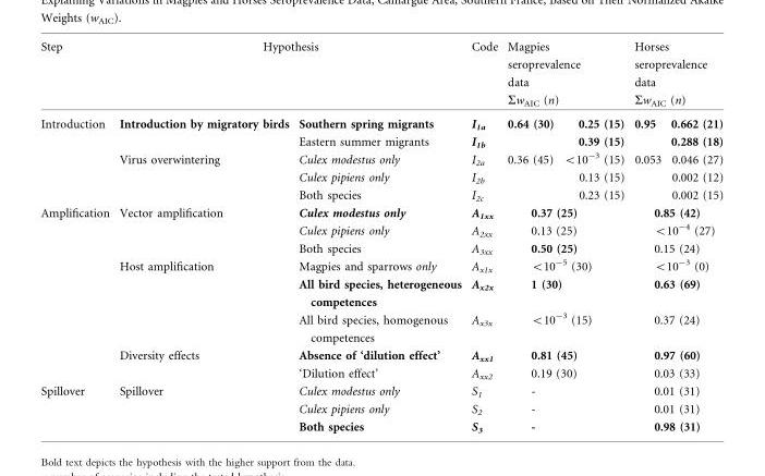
<table><thead><tr><td rowspan="2">Step Introduction</td><td colspan="2">Hypothesis</td><td rowspan="2">Code I<sub>1a</sub></td><td colspan="2">Magpies seroprevalence data Σw<sub>AIC</sub> (n)</td><td colspan="2">Horses seroprevalence data Σw<sub>AIC</sub> (n)</td></tr><tr><td>Introduction by migratory birds</td><td>Southern spring migrants</td><td>0.64 (30)</td><td>0.25 (15)</td><td>0.95</td><td>0.662 (21)</td></tr></thead><tbody><tr><td></td><td></td><td>Eastern summer migrants</td><td>I<sub>1b</sub></td><td></td><td>0.39 (15)</td><td></td><td>0.288 (18)</td></tr><tr><td></td><td>Virus overwintering</td><td>Culex modestus only</td><td>I<sub>2a</sub></td><td>0.36 (45)</td><td>&lt;10<sup>-3</sup> (15)</td><td>0.053</td><td>0.046 (27)</td></tr><tr><td></td><td></td><td>Culex pipiens only</td><td>I<sub>2b</sub></td><td></td><td>0.13 (15)</td><td></td><td>0.002 (12)</td></tr><tr><td></td><td></td><td>Both species</td><td>I<sub>2c</sub></td><td></td><td>0.23 (15)</td><td></td><td>0.002 (15)</td></tr><tr><td rowspan="8">Amplification</td><td>Vector amplification</td><td>Culex modestus only</td><td>A<sub>1xx</sub></td><td colspan="2">0.37 (25)</td><td colspan="2">0.85 (42)</td></tr><tr><td></td><td>Culex pipiens only</td><td>A<sub>2xx</sub></td><td colspan="2">0.13 (25)</td><td colspan="2">&lt;10<sup>-4</sup> (27)</td></tr><tr><td></td><td>Both species</td><td>A<sub>3xx</sub></td><td colspan="2">0.50 (25)</td><td colspan="2">0.15 (24)</td></tr><tr><td>Host amplification</td><td>Magpies and sparrows only</td><td>A<sub>x1x</sub></td><td colspan="2">&lt;10<sup>-5</sup> (30)</td><td colspan="2">&lt;10<sup>-3</sup> (0)</td></tr><tr><td></td><td>All bird species, heterogeneous competences</td><td>A<sub>x2x</sub></td><td colspan="2">1 (30)</td><td colspan="2">0.63 (69)</td></tr><tr><td></td><td>All bird species, homogenous competences</td><td>A<sub>x3x</sub></td><td colspan="2">&lt;10<sup>-3</sup> (15)</td><td colspan="2">0.37 (24)</td></tr><tr><td>Diversity effects</td><td>Absence of ‘dilution effect’</td><td>A<sub>xx1</sub></td><td colspan="2">0.81 (45)</td><td colspan="2">0.97 (60)</td></tr><tr><td></td><td>‘Dilution effect’</td><td>A<sub>xx2</sub></td><td colspan="2">0.19 (30)</td><td colspan="2">0.03 (33)</td></tr><tr><td rowspan="3">Spillover</td><td>Spillover</td><td>Culex modestus only</td><td>S<sub>1</sub></td><td colspan="2">-</td><td colspan="2">0.01 (31)</td></tr><tr><td></td><td>Culex pipiens only</td><td>S<sub>2</sub></td><td colspan="2">-</td><td colspan="2">0.01 (31)</td></tr><tr><td></td><td>Both species</td><td>S<sub>3</sub></td><td colspan="2">-</td><td colspan="2">0.98 (31)</td></tr></tbody></table>